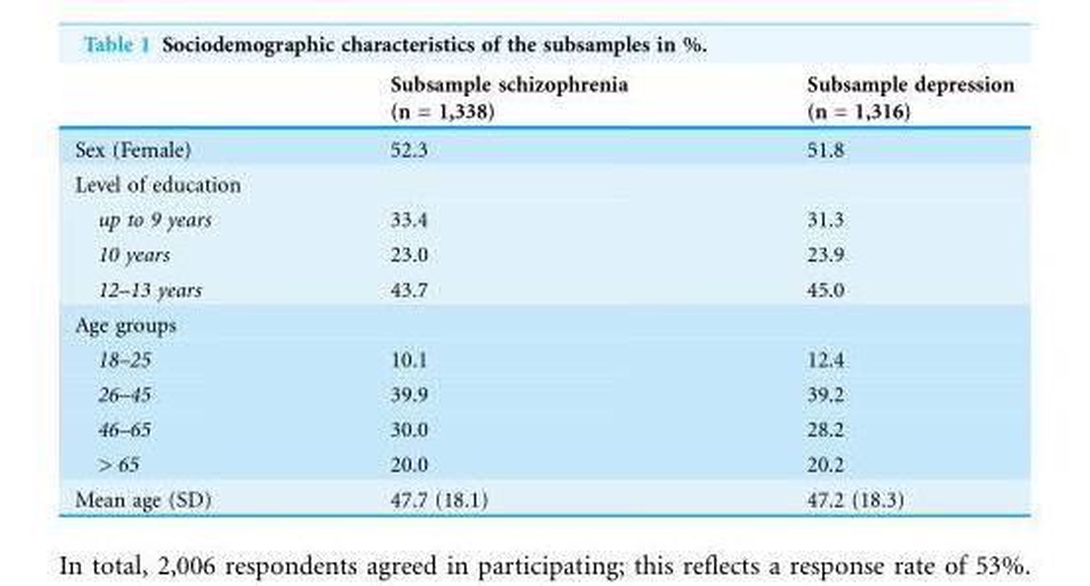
<table><thead><tr><td></td><td>Subsample schizophrenia (n = 1,338)</td><td>Subsample depression (n = 1,316)</td></tr></thead><tbody><tr><td>Sex (Female)</td><td>52.3</td><td>51.8</td></tr><tr><td colspan="3">Level of education</td></tr><tr><td>up to 9 years</td><td>33.4</td><td>31.3</td></tr><tr><td>10 years</td><td>23.0</td><td>23.9</td></tr><tr><td>12–13 years</td><td>43.7</td><td>45.0</td></tr><tr><td colspan="3">Age groups</td></tr><tr><td>18–25</td><td>10.1</td><td>12.4</td></tr><tr><td>26–45</td><td>39.9</td><td>39.2</td></tr><tr><td>46–65</td><td>30.0</td><td>28.2</td></tr><tr><td>&gt; 65</td><td>20.0</td><td>20.2</td></tr><tr><td>Mean age (SD)</td><td>47.7 (18.1)</td><td>47.2 (18.3)</td></tr></tbody></table>